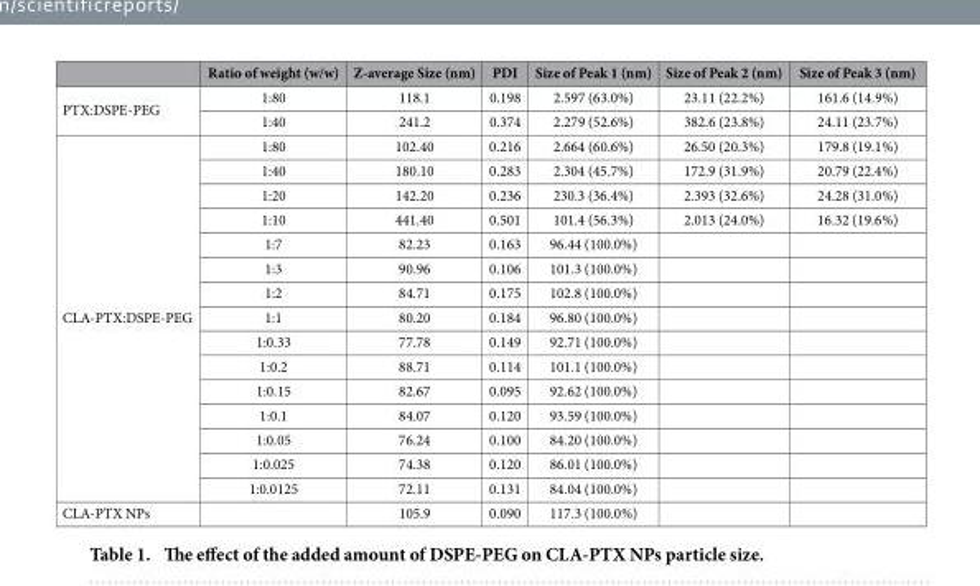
<table><thead><tr><td></td><td>Ratio of weight (w/w)</td><td>Z-average Size (nm)</td><td>PDI</td><td>Size of Peak 1 (nm)</td><td>Size of Peak 2 (nm)</td><td>Size of Peak 3 (nm)</td></tr></thead><tbody><tr><td rowspan="2">PTX:DSPE-PEG</td><td>1:80</td><td>118.1</td><td>0.198</td><td>2.597 (63.0%)</td><td>23.11 (22.2%)</td><td>161.6 (14.9%)</td></tr><tr><td>1:40</td><td>241.2</td><td>0.374</td><td>2.279 (52.6%)</td><td>382.6 (23.8%)</td><td>24.11 (23.7%)</td></tr><tr><td rowspan="15">CLA-PTX:DSPE-PEG</td><td>1:80</td><td>102.40</td><td>0.216</td><td>2.664 (60.6%)</td><td>26.50 (20.3%)</td><td>179.8 (19.1%)</td></tr><tr><td>1:40</td><td>180.10</td><td>0.283</td><td>2.304 (45.7%)</td><td>172.9 (31.9%)</td><td>20.79 (22.4%)</td></tr><tr><td>1:20</td><td>142.20</td><td>0.236</td><td>230.3 (36.4%)</td><td>2.393 (32.6%)</td><td>24.28 (31.0%)</td></tr><tr><td>1:10</td><td>441.40</td><td>0.501</td><td>101.4 (56.3%)</td><td>2.013 (24.0%)</td><td>16.32 (19.6%)</td></tr><tr><td>1:7</td><td>82.23</td><td>0.163</td><td>96.44 (100.0%)</td><td></td><td></td></tr><tr><td>1:3</td><td>90.96</td><td>0.106</td><td>101.3 (100.0%)</td><td></td><td></td></tr><tr><td>1:2</td><td>84.71</td><td>0.175</td><td>102.8 (100.0%)</td><td></td><td></td></tr><tr><td>1:1</td><td>80.20</td><td>0.184</td><td>96.80 (100.0%)</td><td></td><td></td></tr><tr><td>1:0.33</td><td>77.78</td><td>0.149</td><td>92.71 (100.0%)</td><td></td><td></td></tr><tr><td>1:0.2</td><td>88.71</td><td>0.114</td><td>101.1 (100.0%)</td><td></td><td></td></tr><tr><td>1:0.15</td><td>82.67</td><td>0.095</td><td>92.62 (100.0%)</td><td></td><td></td></tr><tr><td>1:0.1</td><td>84.07</td><td>0.120</td><td>93.59 (100.0%)</td><td></td><td></td></tr><tr><td>1:0.05</td><td>76.24</td><td>0.100</td><td>84.20 (100.0%)</td><td></td><td></td></tr><tr><td>1:0.025</td><td>74.38</td><td>0.120</td><td>86.01 (100.0%)</td><td></td><td></td></tr><tr><td>1:0.0125</td><td>72.11</td><td>0.131</td><td>84.04 (100.0%)</td><td></td><td></td></tr><tr><td>CLA-PTX NPs</td><td></td><td>105.9</td><td>0.090</td><td>117.3 (100.0%)</td><td></td><td></td></tr></tbody></table>